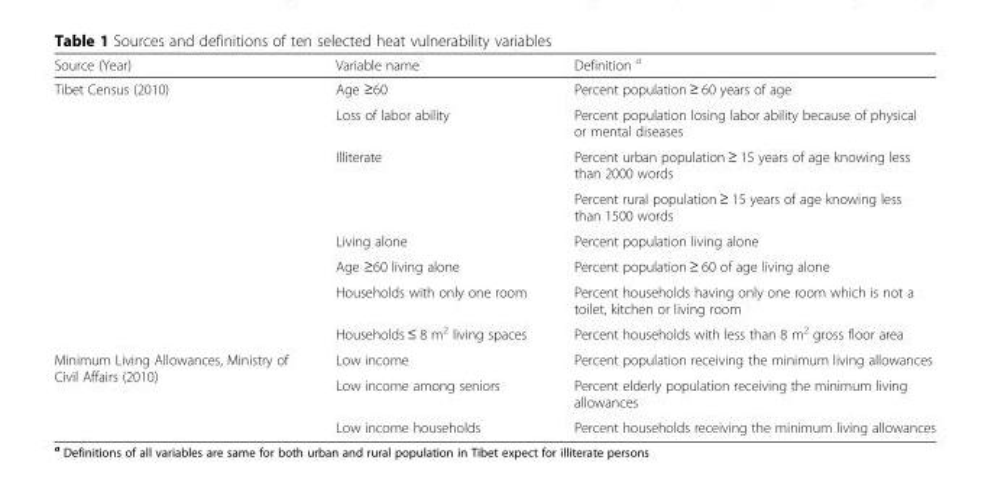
<table><thead><tr><td>Source (Year)</td><td>Variable name</td><td>Definition <sup>a</sup></td></tr></thead><tbody><tr><td rowspan="8">Tibet Census (2010)</td><td>Age ≥60</td><td>Percent population ≥ 60 years of age</td></tr><tr><td>Loss of labor ability</td><td>Percent population losing labor ability because of physical or mental diseases</td></tr><tr><td rowspan="2">Illiterate</td><td>Percent urban population ≥ 15 years of age knowing less than 2000 words</td></tr><tr><td>Percent rural population ≥ 15 years of age knowing less than 1500 words</td></tr><tr><td>Living alone</td><td>Percent population living alone</td></tr><tr><td>Age ≥60 living alone</td><td>Percent population ≥ 60 of age living alone</td></tr><tr><td>Households with only one room</td><td>Percent households having only one room which is not a toilet, kitchen or living room</td></tr><tr><td>Households ≤ 8 m<sup>2</sup> living spaces</td><td>Percent households with less than 8 m<sup>2</sup> gross floor area</td></tr><tr><td rowspan="3">Minimum Living Allowances, Ministry of Civil Affairs (2010)</td><td>Low income</td><td>Percent population receiving the minimum living allowances</td></tr><tr><td>Low income among seniors</td><td>Percent elderly population receiving the minimum living allowances</td></tr><tr><td>Low income households</td><td>Percent households receiving the minimum living allowances</td></tr></tbody></table>